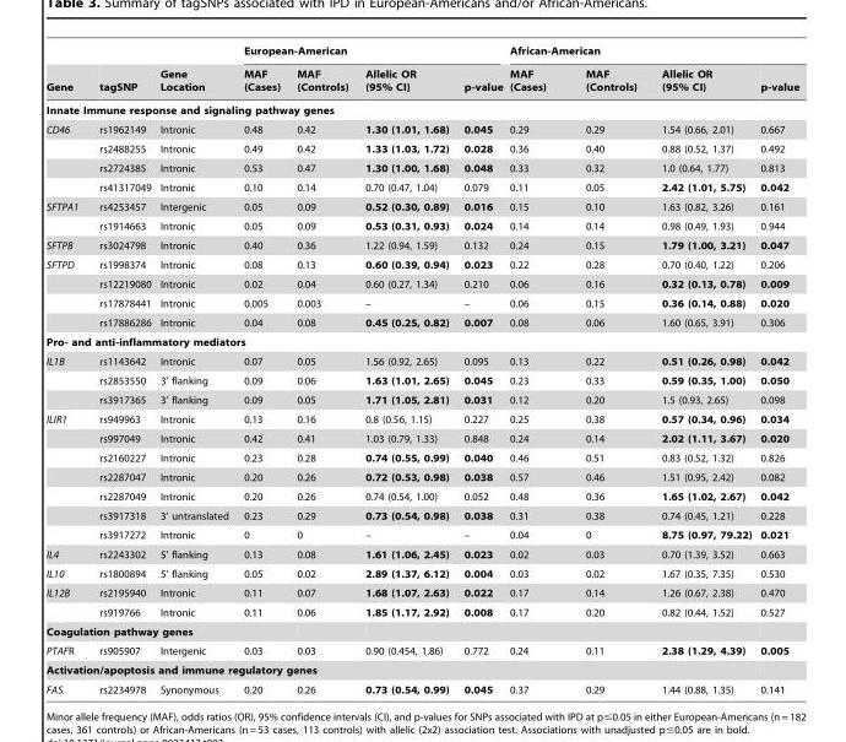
<table><thead><tr><td rowspan="2">Gene</td><td rowspan="2">tagSNP</td><td rowspan="2">Gene Location</td><td colspan="4">European-American</td><td colspan="4">African-American</td></tr><tr><td>MAF (Cases)</td><td>MAF (Controls)</td><td>Allelic OR (95% CI)</td><td>p-value</td><td>MAF (Cases)</td><td>MAF (Controls)</td><td>Allelic OR (95% CI)</td><td>p-value</td></tr></thead><tbody><tr><td colspan="11">Innate Immune response and signaling pathway genes</td></tr><tr><td rowspan="4">CD46</td><td>rs1962149</td><td>Intronic</td><td>0.48</td><td>0.42</td><td>1.30 (1.01, 1.68)</td><td>0.045</td><td>0.29</td><td>0.29</td><td>1.54 (0.66, 2.01)</td><td>0.667</td></tr><tr><td>rs2488255</td><td>Intronic</td><td>0.49</td><td>0.42</td><td>1.33 (1.03, 1.72)</td><td>0.028</td><td>0.36</td><td>0.40</td><td>0.88 (0.52, 1.37)</td><td>0.492</td></tr><tr><td>rs2724385</td><td>Intronic</td><td>0.53</td><td>0.47</td><td>1.30 (1.00, 1.68)</td><td>0.048</td><td>0.33</td><td>0.32</td><td>1.0 (0.64, 1.77)</td><td>0.813</td></tr><tr><td>rs41317049</td><td>Intronic</td><td>0.10</td><td>0.14</td><td>0.70 (0.47, 1.04)</td><td>0.079</td><td>0.11</td><td>0.05</td><td>2.42 (1.01, 5.75)</td><td>0.042</td></tr><tr><td rowspan="2">SFTPA1</td><td>rs4253457</td><td>Intergenic</td><td>0.05</td><td>0.09</td><td>0.52 (0.30, 0.89)</td><td>0.016</td><td>0.15</td><td>0.10</td><td>1.63 (0.82, 3.26)</td><td>0.161</td></tr><tr><td>rs1914663</td><td>Intronic</td><td>0.05</td><td>0.09</td><td>0.53 (0.31, 0.93)</td><td>0.024</td><td>0.14</td><td>0.14</td><td>0.98 (0.49, 1.93)</td><td>0.944</td></tr><tr><td>SFTPB</td><td>rs3024798</td><td>Intronic</td><td>0.40</td><td>0.36</td><td>1.22 (0.94, 1.59)</td><td>0.132</td><td>0.24</td><td>0.15</td><td>1.79 (1.00, 3.21)</td><td>0.047</td></tr><tr><td rowspan="4">SFTPD</td><td>rs1998374</td><td>Intronic</td><td>0.08</td><td>0.13</td><td>0.60 (0.39, 0.94)</td><td>0.023</td><td>0.22</td><td>0.28</td><td>0.70 (0.40, 1.22)</td><td>0.206</td></tr><tr><td>rs12219080</td><td>Intronic</td><td>0.02</td><td>0.04</td><td>0.60 (0.27, 1.34)</td><td>0.210</td><td>0.06</td><td>0.16</td><td>0.32 (0.13, 0.78)</td><td>0.009</td></tr><tr><td>rs17878441</td><td>Intronic</td><td>0.005</td><td>0.003</td><td>–</td><td>–</td><td>0.06</td><td>0.15</td><td>0.36 (0.14, 0.88)</td><td>0.020</td></tr><tr><td>rs17886286</td><td>Intronic</td><td>0.04</td><td>0.08</td><td>0.45 (0.25, 0.82)</td><td>0.007</td><td>0.08</td><td>0.06</td><td>1.60 (0.65, 3.91)</td><td>0.306</td></tr><tr><td colspan="11">Pro- and anti-inflammatory mediators</td></tr><tr><td rowspan="3">IL1B</td><td>rs1143642</td><td>Intronic</td><td>0.07</td><td>0.05</td><td>1.56 (0.92, 2.65)</td><td>0.095</td><td>0.13</td><td>0.22</td><td>0.51 (0.26, 0.98)</td><td>0.042</td></tr><tr><td>rs2853550</td><td>3’ flanking</td><td>0.09</td><td>0.06</td><td>1.63 (1.01, 2.65)</td><td>0.045</td><td>0.23</td><td>0.33</td><td>0.59 (0.35, 1.00)</td><td>0.050</td></tr><tr><td>rs3917365</td><td>3’ flanking</td><td>0.09</td><td>0.05</td><td>1.71 (1.05, 2.81)</td><td>0.031</td><td>0.12</td><td>0.20</td><td>1.5 (0.93, 2.65)</td><td>0.098</td></tr><tr><td rowspan="7">ILIR1</td><td>rs949963</td><td>Intronic</td><td>0.13</td><td>0.16</td><td>0.8 (0.56, 1.15)</td><td>0.227</td><td>0.25</td><td>0.38</td><td>0.57 (0.34, 0.96)</td><td>0.034</td></tr><tr><td>rs997049</td><td>Intronic</td><td>0.42</td><td>0.41</td><td>1.03 (0.79, 1.33)</td><td>0.848</td><td>0.24</td><td>0.14</td><td>2.02 (1.11, 3.67)</td><td>0.020</td></tr><tr><td>rs2160227</td><td>Intronic</td><td>0.23</td><td>0.28</td><td>0.74 (0.55, 0.99)</td><td>0.040</td><td>0.46</td><td>0.51</td><td>0.83 (0.52, 1.32)</td><td>0.826</td></tr><tr><td>rs2287047</td><td>Intronic</td><td>0.20</td><td>0.26</td><td>0.72 (0.53, 0.98)</td><td>0.038</td><td>0.57</td><td>0.46</td><td>1.51 (0.95, 2.42)</td><td>0.082</td></tr><tr><td>rs2287049</td><td>Intronic</td><td>0.20</td><td>0.26</td><td>0.74 (0.54, 1.00)</td><td>0.052</td><td>0.48</td><td>0.36</td><td>1.65 (1.02, 2.67)</td><td>0.042</td></tr><tr><td>rs3917318</td><td>3’ untranslated</td><td>0.23</td><td>0.29</td><td>0.73 (0.54, 0.98)</td><td>0.038</td><td>0.31</td><td>0.38</td><td>0.74 (0.45, 1.21)</td><td>0.228</td></tr><tr><td>rs3917272</td><td>Intronic</td><td>0</td><td>0</td><td>–</td><td>–</td><td>0.04</td><td>0</td><td>8.75 (0.97, 79.22)</td><td>0.021</td></tr><tr><td>IL4</td><td>rs2243302</td><td>5’ flanking</td><td>0.13</td><td>0.08</td><td>1.61 (1.06, 2.45)</td><td>0.023</td><td>0.02</td><td>0.03</td><td>0.70 (1.39, 3.52)</td><td>0.663</td></tr><tr><td>IL10</td><td>rs1800894</td><td>5’ flanking</td><td>0.05</td><td>0.02</td><td>2.89 (1.37, 6.12)</td><td>0.004</td><td>0.03</td><td>0.02</td><td>1.67 (0.35, 7.35)</td><td>0.530</td></tr><tr><td rowspan="2">IL12B</td><td>rs2195940</td><td>Intronic</td><td>0.11</td><td>0.07</td><td>1.68 (1.07, 2.63)</td><td>0.022</td><td>0.17</td><td>0.14</td><td>1.26 (0.67, 2.38)</td><td>0.470</td></tr><tr><td>rs919766</td><td>Intronic</td><td>0.11</td><td>0.06</td><td>1.85 (1.17, 2.92)</td><td>0.008</td><td>0.17</td><td>0.20</td><td>0.82 (0.44, 1.52)</td><td>0.527</td></tr><tr><td colspan="11">Coagulation pathway genes</td></tr><tr><td>PTAFR</td><td>rs905907</td><td>Intergenic</td><td>0.03</td><td>0.03</td><td>0.90 (0.454, 1.86)</td><td>0.772</td><td>0.24</td><td>0.11</td><td>2.38 (1.29, 4.39)</td><td>0.005</td></tr><tr><td colspan="11">Activation/apoptosis and immune regulatory genes</td></tr><tr><td>FAS</td><td>rs2234978</td><td>Synonymous</td><td>0.20</td><td>0.26</td><td>0.73 (0.54, 0.99)</td><td>0.045</td><td>0.37</td><td>0.29</td><td>1.44 (0.88, 1.35)</td><td>0.141</td></tr></tbody></table>